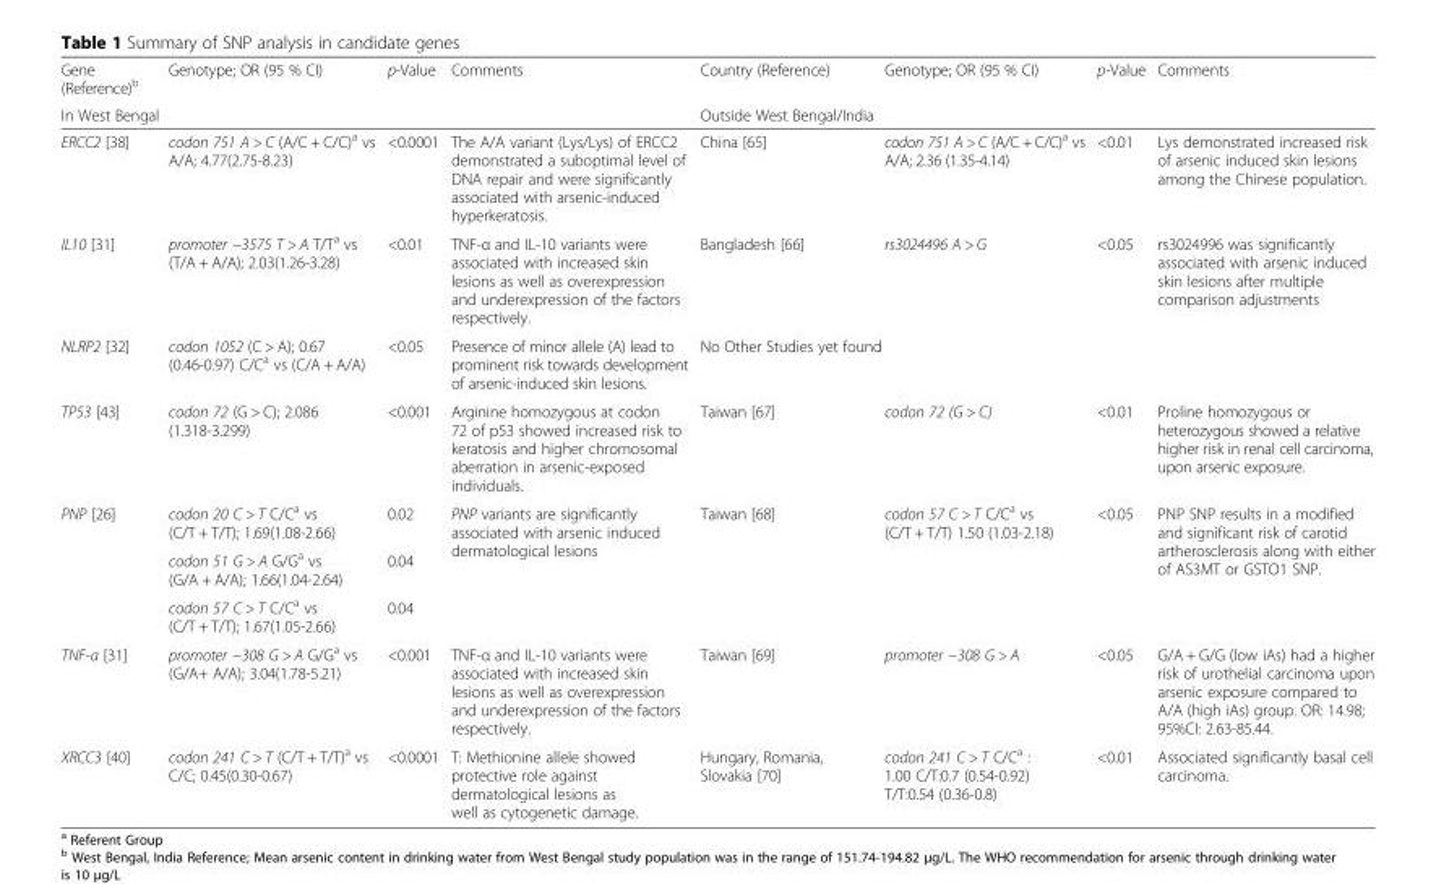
<table><thead><tr><td>Gene (Reference)<sup>b</sup></td><td>Genotype; OR (95 % CI)</td><td>p-Value</td><td>Comments</td><td>Country (Reference)</td><td>Genotype; OR (95 % CI)</td><td>p-Value</td><td>Comments</td></tr><tr><td colspan="4">In West Bengal</td><td colspan="4">Outside West Bengal/India</td></tr></thead><tbody><tr><td>ERCC2 [38]</td><td>codon 751 A &gt; C (A/C + C/C)<sup>a</sup> vs A/A; 4.77(2.75-8.23)</td><td>&lt;0.0001</td><td>The A/A variant (Lys/Lys) of ERCC2 demonstrated a suboptimal level of DNA repair and were significantly associated with arsenic-induced hyperkeratosis.</td><td>China [65]</td><td>codon 751 A &gt; C (A/C + C/C)<sup>a</sup> vs A/A; 2.36 (1.35-4.14)</td><td>&lt;0.01</td><td>Lys demonstrated increased risk of arsenic induced skin lesions among the Chinese population.</td></tr><tr><td>IL10 [31]</td><td>promoter −3575 T &gt; A T/T<sup>a</sup> vs (T/A + A/A); 2.03(1.26-3.28)</td><td>&lt;0.01</td><td>TNF-α and IL-10 variants were associated with increased skin lesions as well as overexpression and underexpression of the factors respectively.</td><td>Bangladesh [66]</td><td>rs3024496 A &gt; G</td><td>&lt;0.05</td><td>rs3024996 was significantly associated with arsenic induced skin lesions after multiple comparison adjustments</td></tr><tr><td>NLRP2 [32]</td><td>codon 1052 (C &gt; A); 0.67 (0.46-0.97) C/C<sup>a</sup> vs (C/A + A/A)</td><td>&lt;0.05</td><td>Presence of minor allele (A) lead to prominent risk towards development of arsenic-induced skin lesions.</td><td colspan="4">No Other Studies yet found</td></tr><tr><td>TP53 [43]</td><td>codon 72 (G &gt; C); 2.086 (1.318-3.299)</td><td>&lt;0.001</td><td>Arginine homozygous at codon 72 of p53 showed increased risk to keratosis and higher chromosomal aberration in arsenic-exposed individuals.</td><td>Taiwan [67]</td><td>codon 72 (G &gt; C)</td><td>&lt;0.01</td><td>Proline homozygous or heterozygous showed a relative higher risk in renal cell carcinoma, upon arsenic exposure.</td></tr><tr><td rowspan="3">PNP [26]</td><td>codon 20 C &gt; T C/C<sup>a</sup> vs (C/T + T/T); 1.69(1.08-2.66)</td><td>0.02</td><td rowspan="3">PNP variants are significantly associated with arsenic induced dermatological lesions</td><td rowspan="3">Taiwan [68]</td><td rowspan="3">codon 57 C &gt; T C/C<sup>a</sup> vs (C/T + T/T) 1.50 (1.03-2.18)</td><td rowspan="3">&lt;0.05</td><td rowspan="3">PNP SNP results in a modified and significant risk of carotid artherosclerosis along with either of AS3MT or GSTO1 SNP.</td></tr><tr><td>codon 51 G &gt; A G/G<sup>a</sup> vs (G/A + A/A); 1.66(1.04-2.64)</td><td>0.04</td></tr><tr><td>codon 57 C &gt; T C/C<sup>a</sup> vs (C/T + T/T); 1.67(1.05-2.66)</td><td>0.04</td></tr><tr><td>TNF-a [31]</td><td>promoter −308 G &gt; A G/G<sup>a</sup> vs (G/A+ A/A); 3.04(1.78-5.21)</td><td>&lt;0.001</td><td>TNF-α and IL-10 variants were associated with increased skin lesions as well as overexpression and underexpression of the factors respectively.</td><td>Taiwan [69]</td><td>promoter −308 G &gt; A</td><td>&lt;0.05</td><td>G/A + G/G (low iAs) had a higher risk of urothelial carcinoma upon arsenic exposure compared to A/A (high iAs) group. OR: 14.98; 95%CI: 2.63-85.44.</td></tr><tr><td>XRCC3 [40]</td><td>codon 241 C &gt; T (C/T + T/T)<sup>a</sup> vs C/C; 0.45(0.30-0.67)</td><td>&lt;0.0001</td><td>T: Methionine allele showed protective role against dermatological lesions as well as cytogenetic damage.</td><td>Hungary, Romania, Slovakia [70]</td><td>codon 241 C &gt; T C/C<sup>a</sup> : 1.00 C/T:0.7 (0.54-0.92) T/T:0.54 (0.36-0.8)</td><td>&lt;0.01</td><td>Associated significantly basal cell carcinoma.</td></tr></tbody></table>